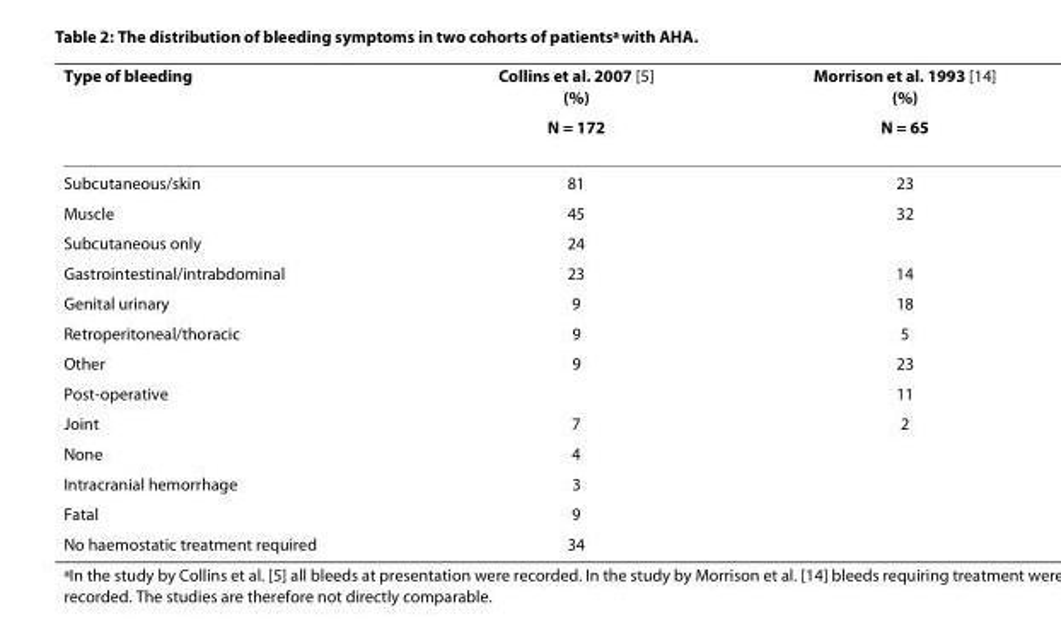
<table><thead><tr><td rowspan="2">Type of bleeding</td><td rowspan="2">Collins et al. 2007 [5] (%) N = 172</td><td rowspan="2">Morrison et al. 1993 [14] (%) N = 65</td></tr><tr></tr></thead><tbody><tr><td>Subcutaneous/skin</td><td>81</td><td>23</td></tr><tr><td>Muscle</td><td>45</td><td>32</td></tr><tr><td>Subcutaneous only</td><td>24</td><td></td></tr><tr><td>Gastrointestinal/intrabdominal</td><td>23</td><td>14</td></tr><tr><td>Genital urinary</td><td>9</td><td>18</td></tr><tr><td>Retroperitoneal/thoracic</td><td>9</td><td>5</td></tr><tr><td>Other</td><td>9</td><td>23</td></tr><tr><td>Post-operative</td><td></td><td>11</td></tr><tr><td>Joint</td><td>7</td><td>2</td></tr><tr><td>None</td><td>4</td><td></td></tr><tr><td>Intracranial hemorrhage</td><td>3</td><td></td></tr><tr><td>Fatal</td><td>9</td><td></td></tr><tr><td>No haemostatic treatment required</td><td>34</td><td></td></tr></tbody></table>